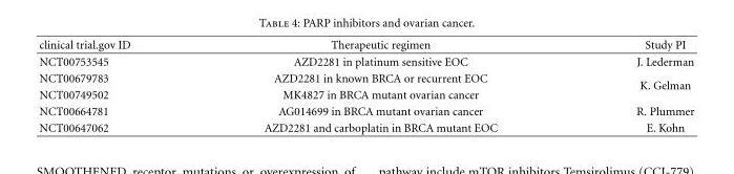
<table><thead><tr><td>clinical trial.gov ID</td><td>Therapeutic regimen</td><td>Study PI</td></tr></thead><tbody><tr><td>NCT00753545</td><td>AZD2281 in platinum sensitive EOC</td><td>J. Lederman</td></tr><tr><td>NCT00679783</td><td>AZD2281 in known BRCA or recurrent EOC</td><td rowspan="2">K. Gelman</td></tr><tr><td>NCT00749502</td><td>MK4827 in BRCA mutant ovarian cancer</td></tr><tr><td>NCT00664781</td><td>AG014699 in BRCA mutant ovarian cancer</td><td>R. Plummer</td></tr><tr><td>NCT00647062</td><td>AZD2281 and carboplatin in BRCA mutant EOC</td><td>E. Kohn</td></tr></tbody></table>